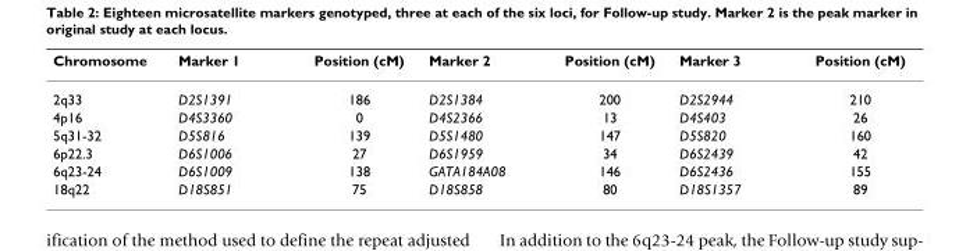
<table><thead><tr><td>Chromosome</td><td>Marker 1</td><td>Position (cM)</td><td>Marker 2</td><td>Position (cM)</td><td>Marker 3</td><td>Position (cM)</td></tr></thead><tbody><tr><td>2q33</td><td>D2S1391</td><td>186</td><td>D2S1384</td><td>200</td><td>D2S2944</td><td>210</td></tr><tr><td>4p16</td><td>D4S3360</td><td>0</td><td>D4S2366</td><td>13</td><td>D4S403</td><td>26</td></tr><tr><td>5q31-32</td><td>D5S816</td><td>139</td><td>D5S1480</td><td>147</td><td>D5S820</td><td>160</td></tr><tr><td>6p22.3</td><td>D6S1006</td><td>27</td><td>D6S1959</td><td>34</td><td>D6S2439</td><td>42</td></tr><tr><td>6q23-24</td><td>D6S1009</td><td>138</td><td>GATA184A08</td><td>146</td><td>D6S2436</td><td>155</td></tr><tr><td>18q22</td><td>D18S851</td><td>75</td><td>D18S858</td><td>80</td><td>D18S1357</td><td>89</td></tr></tbody></table>